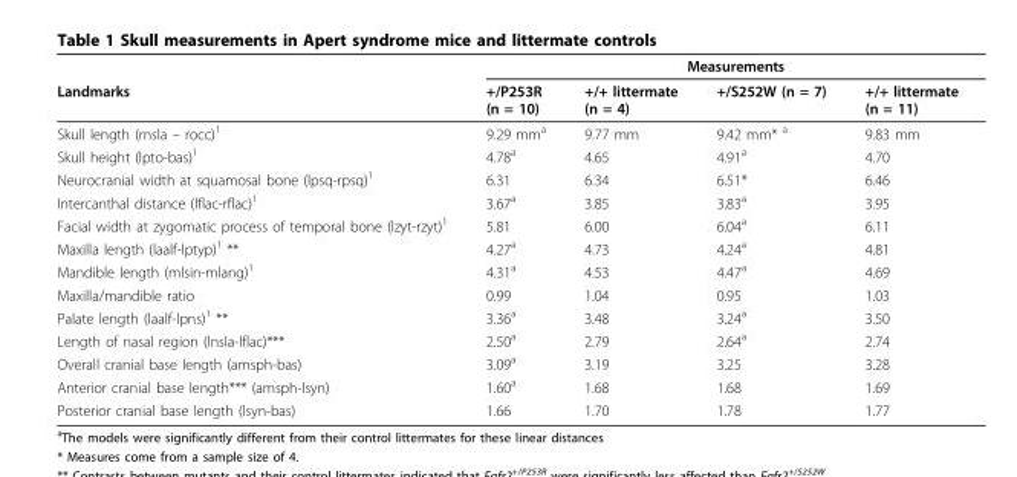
<table><thead><tr><td rowspan="2">Landmarks</td><td colspan="4">Measurements</td></tr><tr><td>+/P253R (n = 10)</td><td>+/+ littermate (n = 4)</td><td>+/S252W (n = 7)</td><td>+/+ littermate (n = 11)</td></tr></thead><tbody><tr><td>Skull length (rnsla – rocc)1</td><td>9.29 mm<sup>a</sup></td><td>9.77 mm</td><td>9.42 mm* <sup>a</sup></td><td>9.83 mm</td></tr><tr><td>Skull height (lpto-bas)<sup>1</sup></td><td>4.78<sup>a</sup></td><td>4.65</td><td>4.91<sup>a</sup></td><td>4.70</td></tr><tr><td>Neurocranial width at squamosal bone (lpsq-rpsq)<sup>1</sup></td><td>6.31</td><td>6.34</td><td>6.51*</td><td>6.46</td></tr><tr><td>Intercanthal distance (lflac-rflac)<sup>1</sup></td><td>3.67<sup>a</sup></td><td>3.85</td><td>3.83<sup>a</sup></td><td>3.95</td></tr><tr><td>Facial width at zygomatic process of temporal bone (lzyt-rzyt)<sup>1</sup></td><td>5.81</td><td>6.00</td><td>6.04<sup>a</sup></td><td>6.11</td></tr><tr><td>Maxilla length (laalf-lptyp)<sup>1</sup> **</td><td>4.27<sup>a</sup></td><td>4.73</td><td>4.24<sup>a</sup></td><td>4.81</td></tr><tr><td>Mandible length (mlsin-mlang)<sup>1</sup></td><td>4.31<sup>a</sup></td><td>4.53</td><td>4.47<sup>a</sup></td><td>4.69</td></tr><tr><td>Maxilla/mandible ratio</td><td>0.99</td><td>1.04</td><td>0.95</td><td>1.03</td></tr><tr><td>Palate length (laalf-lpns)<sup>1</sup> **</td><td>3.36<sup>a</sup></td><td>3.48</td><td>3.24<sup>a</sup></td><td>3.50</td></tr><tr><td>Length of nasal region (lnsla-lflac)***</td><td>2.50<sup>a</sup></td><td>2.79</td><td>2.64<sup>a</sup></td><td>2.74</td></tr><tr><td>Overall cranial base length (amsph-bas)</td><td>3.09<sup>a</sup></td><td>3.19</td><td>3.25</td><td>3.28</td></tr><tr><td>Anterior cranial base length*** (amsph-lsyn)</td><td>1.60<sup>a</sup></td><td>1.68</td><td>1.68</td><td>1.69</td></tr><tr><td>Posterior cranial base length (lsyn-bas)</td><td>1.66</td><td>1.70</td><td>1.78</td><td>1.77</td></tr></tbody></table>